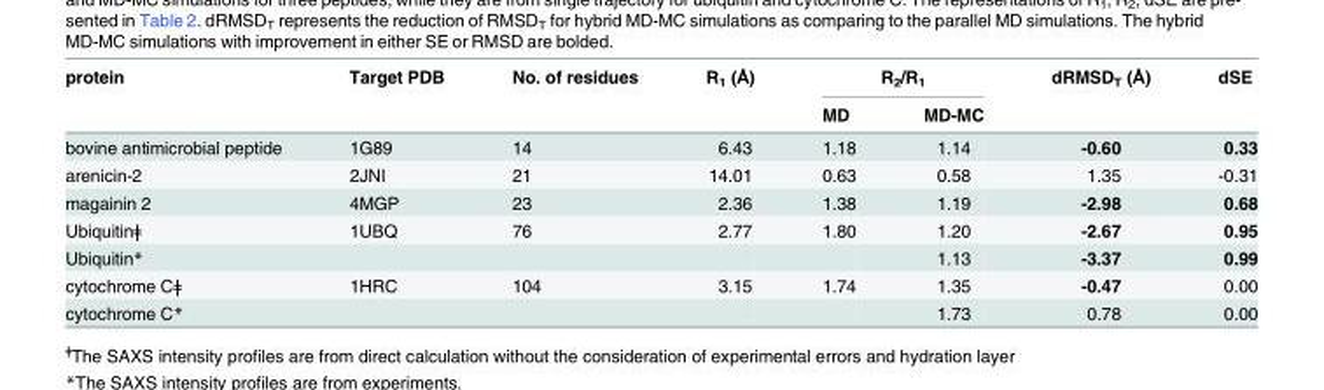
<table><thead><tr><td rowspan="2">protein</td><td rowspan="2">Target PDB</td><td rowspan="2">No. of residues</td><td rowspan="2">R<sub>1</sub> (Å)</td><td colspan="2">R<sub>2</sub>/R<sub>1</sub></td><td rowspan="2">dRMSD<sub>T</sub> (Å)</td><td rowspan="2">dSE</td></tr><tr><td>MD</td><td>MD-MC</td></tr></thead><tbody><tr><td>bovine antimicrobial peptide</td><td>1G89</td><td>14</td><td>6.43</td><td>1.18</td><td>1.14</td><td>-0.60</td><td>0.33</td></tr><tr><td>arenicin-2</td><td>2JNI</td><td>21</td><td>14.01</td><td>0.63</td><td>0.58</td><td>1.35</td><td>-0.31</td></tr><tr><td>magainin 2</td><td>4MGP</td><td>23</td><td>2.36</td><td>1.38</td><td>1.19</td><td>-2.98</td><td>0.68</td></tr><tr><td>Ubiquitinǂ</td><td>1UBQ</td><td>76</td><td>2.77</td><td>1.80</td><td>1.20</td><td>-2.67</td><td>0.95</td></tr><tr><td>Ubiquitin*</td><td></td><td></td><td></td><td></td><td>1.13</td><td>-3.37</td><td>0.99</td></tr><tr><td>cytochrome Cǂ</td><td>1HRC</td><td>104</td><td>3.15</td><td>1.74</td><td>1.35</td><td>-0.47</td><td>0.00</td></tr><tr><td>cytochrome C*</td><td></td><td></td><td></td><td></td><td>1.73</td><td>0.78</td><td>0.00</td></tr></tbody></table>